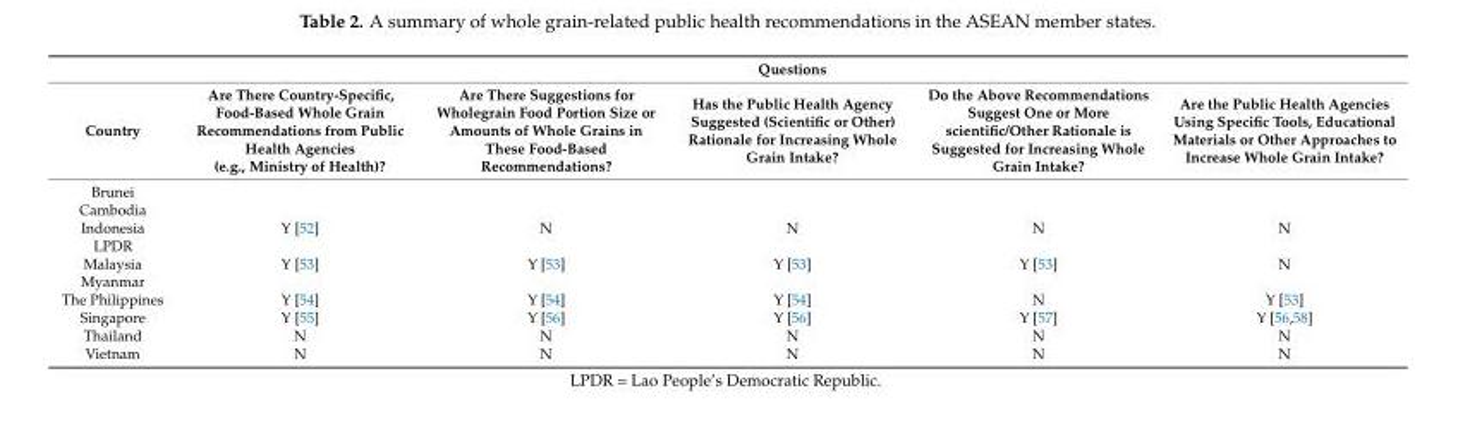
<table><thead><tr><td rowspan="2">Country</td><td colspan="5">Questions</td></tr><tr><td>Are There Country-Specific, Food-Based Whole Grain Recommendations from Public Health Agencies (e.g., Ministry of Health)?</td><td>Are There Suggestions for Wholegrain Food Portion Size or Amounts of Whole Grains in These Food-Based Recommendations?</td><td>Has the Public Health Agency Suggested (Scientific or Other) Rationale for Increasing Whole Grain Intake?</td><td>Do the Above Recommendations Suggest One or More scientific/Other Rationale is Suggested for Increasing Whole Grain Intake?</td><td>Are the Public Health Agencies Using Specific Tools, Educational Materials or Other Approaches to Increase Whole Grain Intake?</td></tr></thead><tbody><tr><td colspan="6">Brunei</td></tr><tr><td colspan="6">Cambodia</td></tr><tr><td>Indonesia</td><td>Y [52]</td><td>N</td><td>N</td><td>N</td><td>N</td></tr><tr><td colspan="6">LPDR</td></tr><tr><td>Malaysia</td><td>Y [53]</td><td>Y [53]</td><td>Y [53]</td><td>Y [53]</td><td>N</td></tr><tr><td colspan="6">Myanmar</td></tr><tr><td>The Philippines</td><td>Y [54]</td><td>Y [54]</td><td>Y [54]</td><td>N</td><td>Y [53]</td></tr><tr><td>Singapore</td><td>Y [55]</td><td>Y [56]</td><td>Y [56]</td><td>Y [57]</td><td>Y [56,58]</td></tr><tr><td>Thailand</td><td>N</td><td>N</td><td>N</td><td>N</td><td>N</td></tr><tr><td>Vietnam</td><td>N</td><td>N</td><td>N</td><td>N</td><td>N</td></tr></tbody></table>